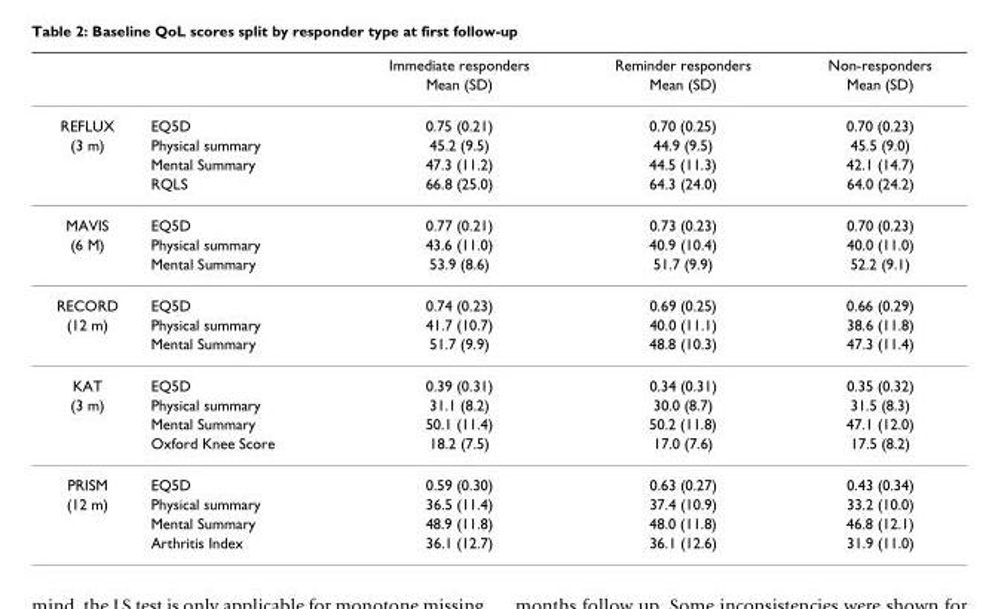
<table><thead><tr><td rowspan="2"></td><td rowspan="2"></td><td rowspan="2">Immediate responders Mean (SD)</td><td rowspan="2">Reminder responders Mean (SD)</td><td rowspan="2">Non-responders Mean (SD)</td></tr><tr></tr></thead><tbody><tr><td>REFLUX</td><td>EQ5D</td><td>0.75 (0.21)</td><td>0.70 (0.25)</td><td>0.70 (0.23)</td></tr><tr><td rowspan="3">(3 m)</td><td>Physical summary</td><td>45.2 (9.5)</td><td>44.9 (9.5)</td><td>45.5 (9.0)</td></tr><tr><td>Mental Summary</td><td>47.3 (11.2)</td><td>44.5 (11.3)</td><td>42.1 (14.7)</td></tr><tr><td>RQLS</td><td>66.8 (25.0)</td><td>64.3 (24.0)</td><td>64.0 (24.2)</td></tr><tr><td>MAVIS</td><td>EQ5D</td><td>0.77 (0.21)</td><td>0.73 (0.23)</td><td>0.70 (0.23)</td></tr><tr><td rowspan="2">(6 M)</td><td>Physical summary</td><td>43.6 (11.0)</td><td>40.9 (10.4)</td><td>40.0 (11.0)</td></tr><tr><td>Mental Summary</td><td>53.9 (8.6)</td><td>51.7 (9.9)</td><td>52.2 (9.1)</td></tr><tr><td>RECORD</td><td>EQ5D</td><td>0.74 (0.23)</td><td>0.69 (0.25)</td><td>0.66 (0.29)</td></tr><tr><td rowspan="2">(12 m)</td><td>Physical summary</td><td>41.7 (10.7)</td><td>40.0 (11.1)</td><td>38.6 (11.8)</td></tr><tr><td>Mental Summary</td><td>51.7 (9.9)</td><td>48.8 (10.3)</td><td>47.3 (11.4)</td></tr><tr><td>KAT</td><td>EQ5D</td><td>0.39 (0.31)</td><td>0.34 (0.31)</td><td>0.35 (0.32)</td></tr><tr><td rowspan="3">(3 m)</td><td>Physical summary</td><td>31.1 (8.2)</td><td>30.0 (8.7)</td><td>31.5 (8.3)</td></tr><tr><td>Mental Summary</td><td>50.1 (11.4)</td><td>50.2 (11.8)</td><td>47.1 (12.0)</td></tr><tr><td>Oxford Knee Score</td><td>18.2 (7.5)</td><td>17.0 (7.6)</td><td>17.5 (8.2)</td></tr><tr><td>PRISM</td><td>EQ5D</td><td>0.59 (0.30)</td><td>0.63 (0.27)</td><td>0.43 (0.34)</td></tr><tr><td rowspan="3">(12 m)</td><td>Physical summary</td><td>36.5 (11.4)</td><td>37.4 (10.9)</td><td>33.2 (10.0)</td></tr><tr><td>Mental Summary</td><td>48.9 (11.8)</td><td>48.0 (11.8)</td><td>46.8 (12.1)</td></tr><tr><td>Arthritis Index</td><td>36.1 (12.7)</td><td>36.1 (12.6)</td><td>31.9 (11.0)</td></tr></tbody></table>